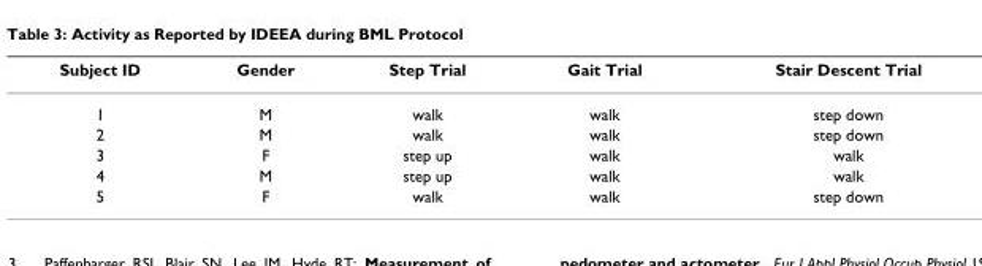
<table><thead><tr><td>Subject ID</td><td>Gender</td><td>Step Trial</td><td>Gait Trial</td><td>Stair Descent Trial</td></tr></thead><tbody><tr><td>1</td><td>M</td><td>walk</td><td>walk</td><td>step down</td></tr><tr><td>2</td><td>M</td><td>walk</td><td>walk</td><td>step down</td></tr><tr><td>3</td><td>F</td><td>step up</td><td>walk</td><td>walk</td></tr><tr><td>4</td><td>M</td><td>step up</td><td>walk</td><td>walk</td></tr><tr><td>5</td><td>F</td><td>walk</td><td>walk</td><td>step down</td></tr></tbody></table>